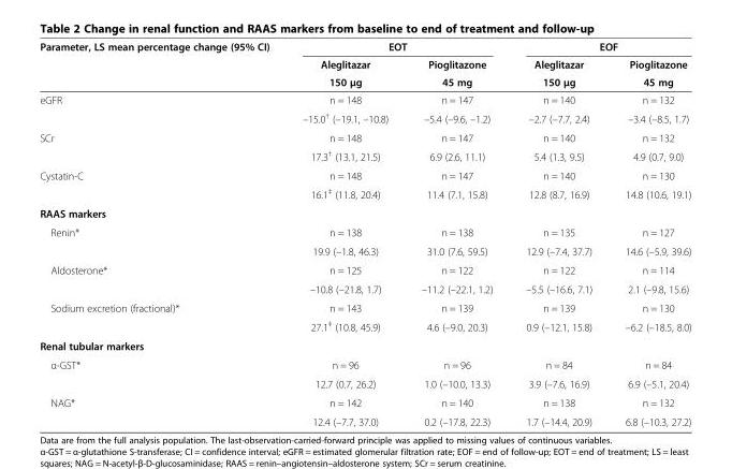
<table><thead><tr><td rowspan="3">Parameter, LS mean percentage change (95% CI)</td><td colspan="2">EOT</td><td colspan="2">EOF</td></tr><tr><td rowspan="2">Aleglitazar 150 μg</td><td rowspan="2">Pioglitazone 45 mg</td><td rowspan="2">Aleglitazar 150 μg</td><td rowspan="2">Pioglitazone 45 mg</td></tr><tr></tr></thead><tbody><tr><td rowspan="2">eGFR</td><td>n = 148</td><td>n = 147</td><td>n = 140</td><td>n = 132</td></tr><tr><td>–15.0<sup>†</sup> (–19.1, –10.8)</td><td>–5.4 (–9.6, –1.2)</td><td>–2.7 (–7.7, 2.4)</td><td>–3.4 (–8.5, 1.7)</td></tr><tr><td rowspan="2">SCr</td><td>n = 148</td><td>n = 147</td><td>n = 140</td><td>n = 132</td></tr><tr><td>17.3<sup>†</sup> (13.1, 21.5)</td><td>6.9 (2.6, 11.1)</td><td>5.4 (1.3, 9.5)</td><td>4.9 (0.7, 9.0)</td></tr><tr><td rowspan="2">Cystatin-C</td><td>n = 148</td><td>n = 147</td><td>n = 140</td><td>n = 130</td></tr><tr><td>16.1<sup>‡</sup> (11.8, 20.4)</td><td>11.4 (7.1, 15.8)</td><td>12.8 (8.7, 16.9)</td><td>14.8 (10.6, 19.1)</td></tr><tr><td colspan="5">RAAS markers</td></tr><tr><td rowspan="2">Renin*</td><td>n = 138</td><td>n = 138</td><td>n = 135</td><td>n = 127</td></tr><tr><td>19.9 (–1.8, 46.3)</td><td>31.0 (7.6, 59.5)</td><td>12.9 (–7.4, 37.7)</td><td>14.6 (–5.9, 39.6)</td></tr><tr><td rowspan="2">Aldosterone*</td><td>n = 125</td><td>n = 122</td><td>n = 122</td><td>n = 114</td></tr><tr><td>–10.8 (–21.8, 1.7)</td><td>–11.2 (–22.1, 1.2)</td><td>–5.5 (–16.6, 7.1)</td><td>2.1 (–9.8, 15.6)</td></tr><tr><td rowspan="2">Sodium excretion (fractional)*</td><td>n = 143</td><td>n = 139</td><td>n = 139</td><td>n = 130</td></tr><tr><td>27.1<sup>‡</sup> (10.8, 45.9)</td><td>4.6 (–9.0, 20.3)</td><td>0.9 (–12.1, 15.8)</td><td>–6.2 (–18.5, 8.0)</td></tr><tr><td colspan="5">Renal tubular markers</td></tr><tr><td rowspan="2">α-GST*</td><td>n = 96</td><td>n = 96</td><td>n = 84</td><td>n = 84</td></tr><tr><td>12.7 (0.7, 26.2)</td><td>1.0 (–10.0, 13.3)</td><td>3.9 (–7.6, 16.9)</td><td>6.9 (–5.1, 20.4)</td></tr><tr><td rowspan="2">NAG*</td><td>n = 142</td><td>n = 140</td><td>n = 138</td><td>n = 132</td></tr><tr><td>12.4 (–7.7, 37.0)</td><td>0.2 (–17.8, 22.3)</td><td>1.7 (–14.4, 20.9)</td><td>6.8 (–10.3, 27.2)</td></tr></tbody></table>